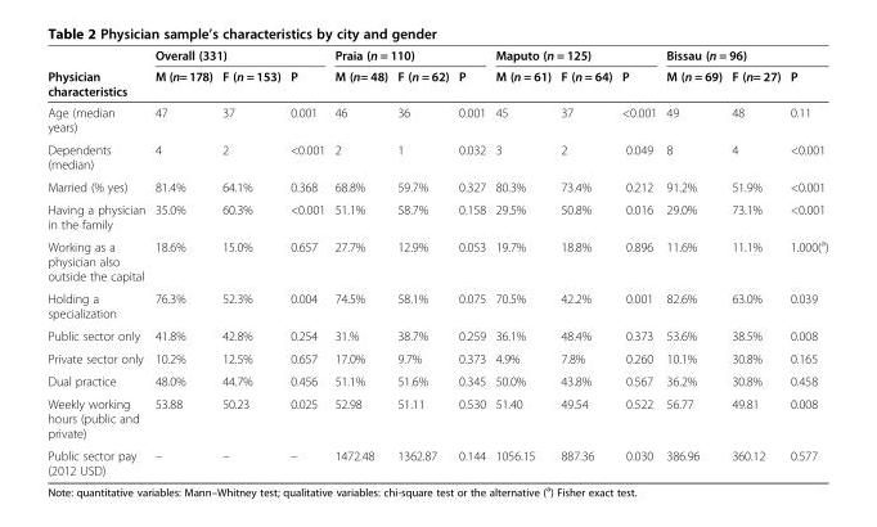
<table><thead><tr><td rowspan="2">Physician characteristics</td><td colspan="3">Overall (331)</td><td colspan="3">Praia (n = 110)</td><td colspan="3">Maputo (n = 125)</td><td colspan="3">Bissau (n = 96)</td></tr><tr><td>M (n= 178)</td><td>F (n = 153)</td><td>P</td><td>M (n= 48)</td><td>F (n = 62)</td><td>P</td><td>M (n = 61)</td><td>F (n = 64)</td><td>P</td><td>M (n = 69)</td><td>F (n= 27)</td><td>P</td></tr></thead><tbody><tr><td>Age (median years)</td><td>47</td><td>37</td><td>0.001</td><td>46</td><td>36</td><td>0.001</td><td>45</td><td>37</td><td>&lt;0.001</td><td>49</td><td>48</td><td>0.11</td></tr><tr><td>Dependents (median)</td><td>4</td><td>2</td><td>&lt;0.001</td><td>2</td><td>1</td><td>0.032</td><td>3</td><td>2</td><td>0.049</td><td>8</td><td>4</td><td>&lt;0.001</td></tr><tr><td>Married (% yes)</td><td>81.4%</td><td>64.1%</td><td>0.368</td><td>68.8%</td><td>59.7%</td><td>0.327</td><td>80.3%</td><td>73.4%</td><td>0.212</td><td>91.2%</td><td>51.9%</td><td>&lt;0.001</td></tr><tr><td>Having a physician in the family</td><td>35.0%</td><td>60.3%</td><td>&lt;0.001</td><td>51.1%</td><td>58.7%</td><td>0.158</td><td>29.5%</td><td>50.8%</td><td>0.016</td><td>29.0%</td><td>73.1%</td><td>&lt;0.001</td></tr><tr><td>Working as a physician also outside the capital</td><td>18.6%</td><td>15.0%</td><td>0.657</td><td>27.7%</td><td>12.9%</td><td>0.053</td><td>19.7%</td><td>18.8%</td><td>0.896</td><td>11.6%</td><td>11.1%</td><td>1.000(<sup>a</sup>)</td></tr><tr><td>Holding a specialization</td><td>76.3%</td><td>52.3%</td><td>0.004</td><td>74.5%</td><td>58.1%</td><td>0.075</td><td>70.5%</td><td>42.2%</td><td>0.001</td><td>82.6%</td><td>63.0%</td><td>0.039</td></tr><tr><td>Public sector only</td><td>41.8%</td><td>42.8%</td><td>0.254</td><td>31.%</td><td>38.7%</td><td>0.259</td><td>36.1%</td><td>48.4%</td><td>0.373</td><td>53.6%</td><td>38.5%</td><td>0.008</td></tr><tr><td>Private sector only</td><td>10.2%</td><td>12.5%</td><td>0.657</td><td>17.0%</td><td>9.7%</td><td>0.373</td><td>4.9%</td><td>7.8%</td><td>0.260</td><td>10.1%</td><td>30.8%</td><td>0.165</td></tr><tr><td>Dual practice</td><td>48.0%</td><td>44.7%</td><td>0.456</td><td>51.1%</td><td>51.6%</td><td>0.345</td><td>50.0%</td><td>43.8%</td><td>0.567</td><td>36.2%</td><td>30.8%</td><td>0.458</td></tr><tr><td>Weekly working hours (public and private)</td><td>53.88</td><td>50.23</td><td>0.025</td><td>52.98</td><td>51.11</td><td>0.530</td><td>51.40</td><td>49.54</td><td>0.522</td><td>56.77</td><td>49.81</td><td>0.008</td></tr><tr><td>Public sector pay (2012 USD)</td><td>–</td><td>–</td><td>–</td><td>1472.48</td><td>1362.87</td><td>0.144</td><td>1056.15</td><td>887.36</td><td>0.030</td><td>386.96</td><td>360.12</td><td>0.577</td></tr></tbody></table>